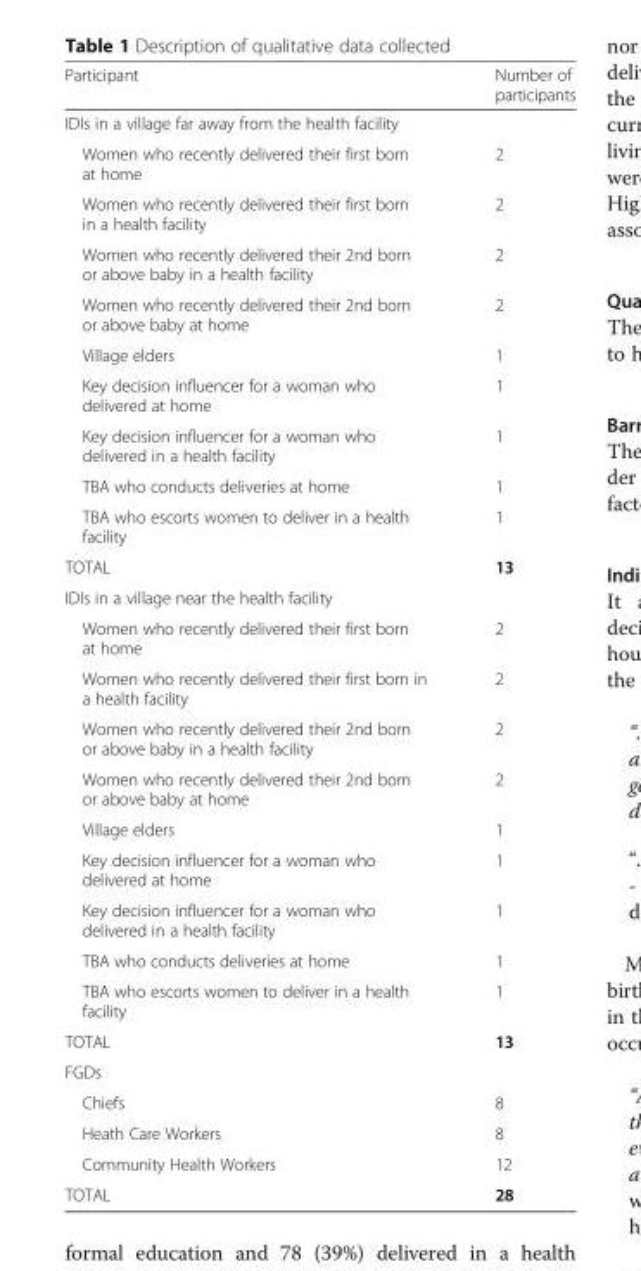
<table><thead><tr><td>Participant</td><td>Number of participants</td></tr></thead><tbody><tr><td colspan="2">IDIs in a village far away from the health facility</td></tr><tr><td>Women who recently delivered their first born at home</td><td>2</td></tr><tr><td>Women who recently delivered their first born in a health facility</td><td>2</td></tr><tr><td>Women who recently delivered their 2nd born or above baby in a health facility</td><td>2</td></tr><tr><td>Women who recently delivered their 2nd born or above baby at home</td><td>2</td></tr><tr><td>Village elders</td><td>1</td></tr><tr><td>Key decision influencer for a woman who delivered at home</td><td>1</td></tr><tr><td>Key decision influencer for a woman who delivered in a health facility</td><td>1</td></tr><tr><td>TBA who conducts deliveries at home</td><td>1</td></tr><tr><td>TBA who escorts women to deliver in a health facility</td><td>1</td></tr><tr><td>TOTAL</td><td>13</td></tr><tr><td colspan="2">IDIs in a village near the health facility</td></tr><tr><td>Women who recently delivered their first born at home</td><td>2</td></tr><tr><td>Women who recently delivered their first born in a health facility</td><td>2</td></tr><tr><td>Women who recently delivered their 2nd born or above baby in a health facility</td><td>2</td></tr><tr><td>Women who recently delivered their 2nd born or above baby at home</td><td>2</td></tr><tr><td>Village elders</td><td>1</td></tr><tr><td>Key decision influencer for a woman who delivered at home</td><td>1</td></tr><tr><td>Key decision influencer for a woman who delivered in a health facility</td><td>1</td></tr><tr><td>TBA who conducts deliveries at home</td><td>1</td></tr><tr><td>TBA who escorts women to deliver in a health facility</td><td>1</td></tr><tr><td>TOTAL</td><td>13</td></tr><tr><td colspan="2">FGDs</td></tr><tr><td>Chiefs</td><td>8</td></tr><tr><td>Heath Care Workers</td><td>8</td></tr><tr><td>Community Health Workers</td><td>12</td></tr><tr><td>TOTAL</td><td>28</td></tr></tbody></table>